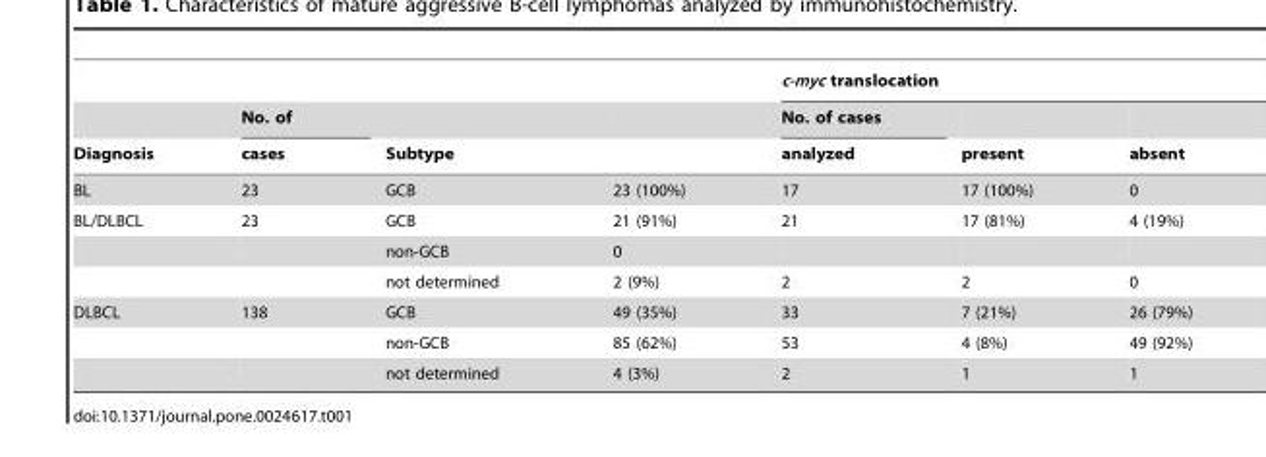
<table><thead><tr><td rowspan="3">Diagnosis</td><td rowspan="3">No. of cases</td><td rowspan="3">Subtype</td><td rowspan="3"></td><td colspan="3">c-myc translocation</td></tr><tr><td rowspan="2">No. of cases analyzed</td><td rowspan="2">present</td><td rowspan="2">absent</td></tr><tr></tr></thead><tbody><tr><td>BL</td><td>23</td><td>GCB</td><td>23 (100%)</td><td>17</td><td>17 (100%)</td><td>0</td></tr><tr><td rowspan="3">BL/DLBCL</td><td>23</td><td>GCB</td><td>21 (91%)</td><td>21</td><td>17 (81%)</td><td>4 (19%)</td></tr><tr><td></td><td>non-GCB</td><td>0</td><td></td><td></td><td></td></tr><tr><td></td><td>not determined</td><td>2 (9%)</td><td>2</td><td>2</td><td>0</td></tr><tr><td rowspan="3">DLBCL</td><td>138</td><td>GCB</td><td>49 (35%)</td><td>33</td><td>7 (21%)</td><td>26 (79%)</td></tr><tr><td></td><td>non-GCB</td><td>85 (62%)</td><td>53</td><td>4 (8%)</td><td>49 (92%)</td></tr><tr><td></td><td>not determined</td><td>4 (3%)</td><td>2</td><td>1</td><td>1</td></tr></tbody></table>